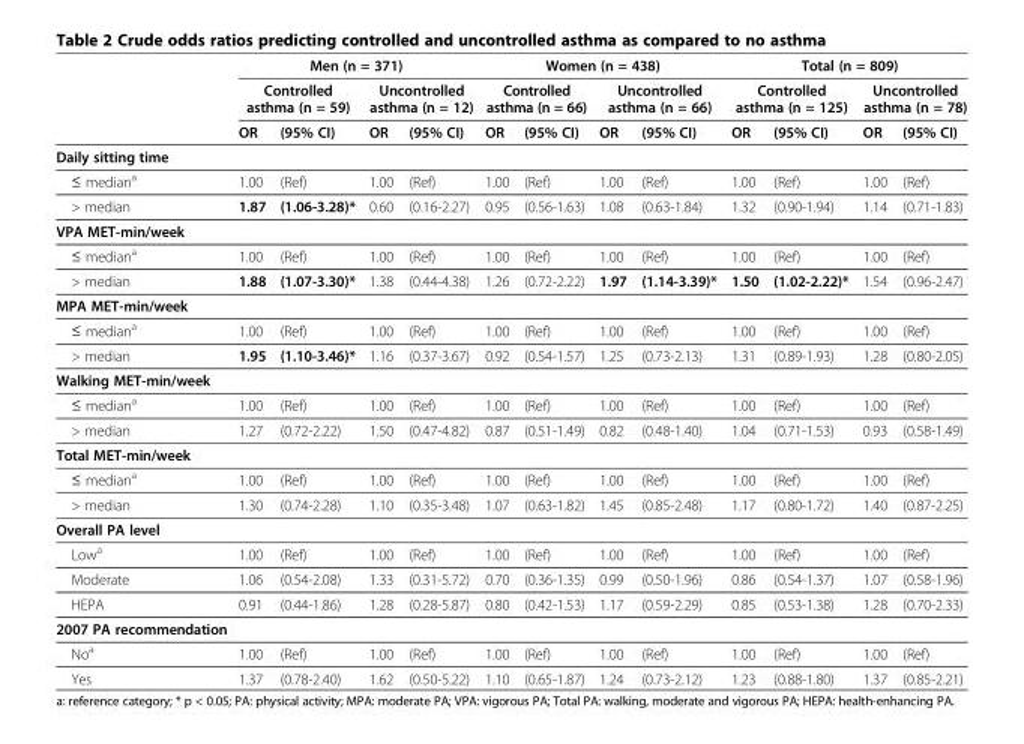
<table><thead><tr><td rowspan="3"></td><td colspan="4">Men (n = 371)</td><td colspan="4">Women (n = 438)</td><td colspan="4">Total (n = 809)</td></tr><tr><td colspan="2">Controlled asthma (n = 59)</td><td colspan="2">Uncontrolled asthma (n = 12)</td><td colspan="2">Controlled asthma (n = 66)</td><td colspan="2">Uncontrolled asthma (n = 66)</td><td colspan="2">Controlled asthma (n = 125)</td><td colspan="2">Uncontrolled asthma (n = 78)</td></tr><tr><td>OR</td><td>(95% CI)</td><td>OR</td><td>(95% CI)</td><td>OR</td><td>(95% CI)</td><td>OR</td><td>(95% CI)</td><td>OR</td><td>(95% CI)</td><td>OR</td><td>(95% CI)</td></tr></thead><tbody><tr><td colspan="13">Daily sitting time</td></tr><tr><td>≤ median<sup>a</sup></td><td>1.00</td><td>(Ref)</td><td>1.00</td><td>(Ref)</td><td>1.00</td><td>(Ref)</td><td>1.00</td><td>(Ref)</td><td>1.00</td><td>(Ref)</td><td>1.00</td><td>(Ref)</td></tr><tr><td>&gt; median</td><td>1.87</td><td>(1.06-3.28)*</td><td>0.60</td><td>(0.16-2.27)</td><td>0.95</td><td>(0.56-1.63)</td><td>1.08</td><td>(0.63-1.84)</td><td>1.32</td><td>(0.90-1.94)</td><td>1.14</td><td>(0.71-1.83)</td></tr><tr><td colspan="13">VPA MET-min/week</td></tr><tr><td>≤ median<sup>a</sup></td><td>1.00</td><td>(Ref)</td><td>1.00</td><td>(Ref)</td><td>1.00</td><td>(Ref)</td><td>1.00</td><td>(Ref)</td><td>1.00</td><td>(Ref)</td><td>1.00</td><td>(Ref)</td></tr><tr><td>&gt; median</td><td>1.88</td><td>(1.07-3.30)*</td><td>1.38</td><td>(0.44-4.38)</td><td>1.26</td><td>(0.72-2.22)</td><td>1.97</td><td>(1.14-3.39)*</td><td>1.50</td><td>(1.02-2.22)*</td><td>1.54</td><td>(0.96-2.47)</td></tr><tr><td colspan="13">MPA MET-min/week</td></tr><tr><td>≤ median<sup>a</sup></td><td>1.00</td><td>(Ref)</td><td>1.00</td><td>(Ref)</td><td>1.00</td><td>(Ref)</td><td>1.00</td><td>(Ref)</td><td>1.00</td><td>(Ref)</td><td>1.00</td><td>(Ref)</td></tr><tr><td>&gt; median</td><td>1.95</td><td>(1.10-3.46)*</td><td>1.16</td><td>(0.37-3.67)</td><td>0.92</td><td>(0.54-1.57)</td><td>1.25</td><td>(0.73-2.13)</td><td>1.31</td><td>(0.89-1.93)</td><td>1.28</td><td>(0.80-2.05)</td></tr><tr><td colspan="13">Walking MET-min/week</td></tr><tr><td>≤ median<sup>a</sup></td><td>1.00</td><td>(Ref)</td><td>1.00</td><td>(Ref)</td><td>1.00</td><td>(Ref)</td><td>1.00</td><td>(Ref)</td><td>1.00</td><td>(Ref)</td><td>1.00</td><td>(Ref)</td></tr><tr><td>&gt; median</td><td>1.27</td><td>(0.72-2.22)</td><td>1.50</td><td>(0.47-4.82)</td><td>0.87</td><td>(0.51-1.49)</td><td>0.82</td><td>(0.48-1.40)</td><td>1.04</td><td>(0.71-1.53)</td><td>0.93</td><td>(0.58-1.49)</td></tr><tr><td colspan="13">Total MET-min/week</td></tr><tr><td>≤ median<sup>a</sup></td><td>1.00</td><td>(Ref)</td><td>1.00</td><td>(Ref)</td><td>1.00</td><td>(Ref)</td><td>1.00</td><td>(Ref)</td><td>1.00</td><td>(Ref)</td><td>1.00</td><td>(Ref)</td></tr><tr><td>&gt; median</td><td>1.30</td><td>(0.74-2.28)</td><td>1.10</td><td>(0.35-3.48)</td><td>1.07</td><td>(0.63-1.82)</td><td>1.45</td><td>(0.85-2.48)</td><td>1.17</td><td>(0.80-1.72)</td><td>1.40</td><td>(0.87-2.25)</td></tr><tr><td colspan="13">Overall PA level</td></tr><tr><td>Low<sup>a</sup></td><td>1.00</td><td>(Ref)</td><td>1.00</td><td>(Ref)</td><td>1.00</td><td>(Ref)</td><td>1.00</td><td>(Ref)</td><td>1.00</td><td>(Ref)</td><td>1.00</td><td>(Ref)</td></tr><tr><td>Moderate</td><td>1.06</td><td>(0.54-2.08)</td><td>1.33</td><td>(0.31-5.72)</td><td>0.70</td><td>(0.36-1.35)</td><td>0.99</td><td>(0.50-1.96)</td><td>0.86</td><td>(0.54-1.37)</td><td>1.07</td><td>(0.58-1.96)</td></tr><tr><td>HEPA</td><td>0.91</td><td>(0.44-1.86)</td><td>1.28</td><td>(0.28-5.87)</td><td>0.80</td><td>(0.42-1.53)</td><td>1.17</td><td>(0.59-2.29)</td><td>0.85</td><td>(0.53-1.38)</td><td>1.28</td><td>(0.70-2.33)</td></tr><tr><td colspan="13">2007 PA recommendation</td></tr><tr><td>No<sup>a</sup></td><td>1.00</td><td>(Ref)</td><td>1.00</td><td>(Ref)</td><td>1.00</td><td>(Ref)</td><td>1.00</td><td>(Ref)</td><td>1.00</td><td>(Ref)</td><td>1.00</td><td>(Ref)</td></tr><tr><td>Yes</td><td>1.37</td><td>(0.78-2.40)</td><td>1.62</td><td>(0.50-5.22)</td><td>1.10</td><td>(0.65-1.87)</td><td>1.24</td><td>(0.73-2.12)</td><td>1.23</td><td>(0.88-1.80)</td><td>1.37</td><td>(0.85-2.21)</td></tr></tbody></table>